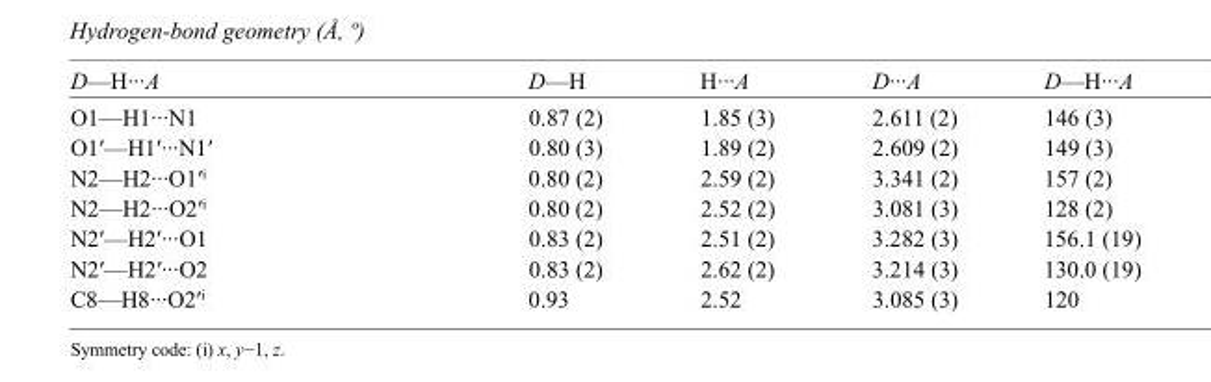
<table><tbody><tr><td>D—H···A</td><td>D—H</td><td>H···A</td><td>D···A</td><td>D—H···A</td></tr><tr><td>O1—H1···N1</td><td>0.87 (2)</td><td>1.85 (3)</td><td>2.611 (2)</td><td>146 (3)</td></tr><tr><td>O1′—H1′···N1′</td><td>0.80 (3)</td><td>1.89 (2)</td><td>2.609 (2)</td><td>149 (3)</td></tr><tr><td>N2—H2···O1′<sup>i</sup></td><td>0.80 (2)</td><td>2.59 (2)</td><td>3.341 (2)</td><td>157 (2)</td></tr><tr><td>N2—H2···O2′<sup>i</sup></td><td>0.80 (2)</td><td>2.52 (2)</td><td>3.081 (3)</td><td>128 (2)</td></tr><tr><td>N2′—H2′···O1</td><td>0.83 (2)</td><td>2.51 (2)</td><td>3.282 (3)</td><td>156.1 (19)</td></tr><tr><td>N2′—H2′···O2</td><td>0.83 (2)</td><td>2.62 (2)</td><td>3.214 (3)</td><td>130.0 (19)</td></tr><tr><td>C8—H8···O2′<sup>i</sup></td><td>0.93</td><td>2.52</td><td>3.085 (3)</td><td>120</td></tr></tbody></table>